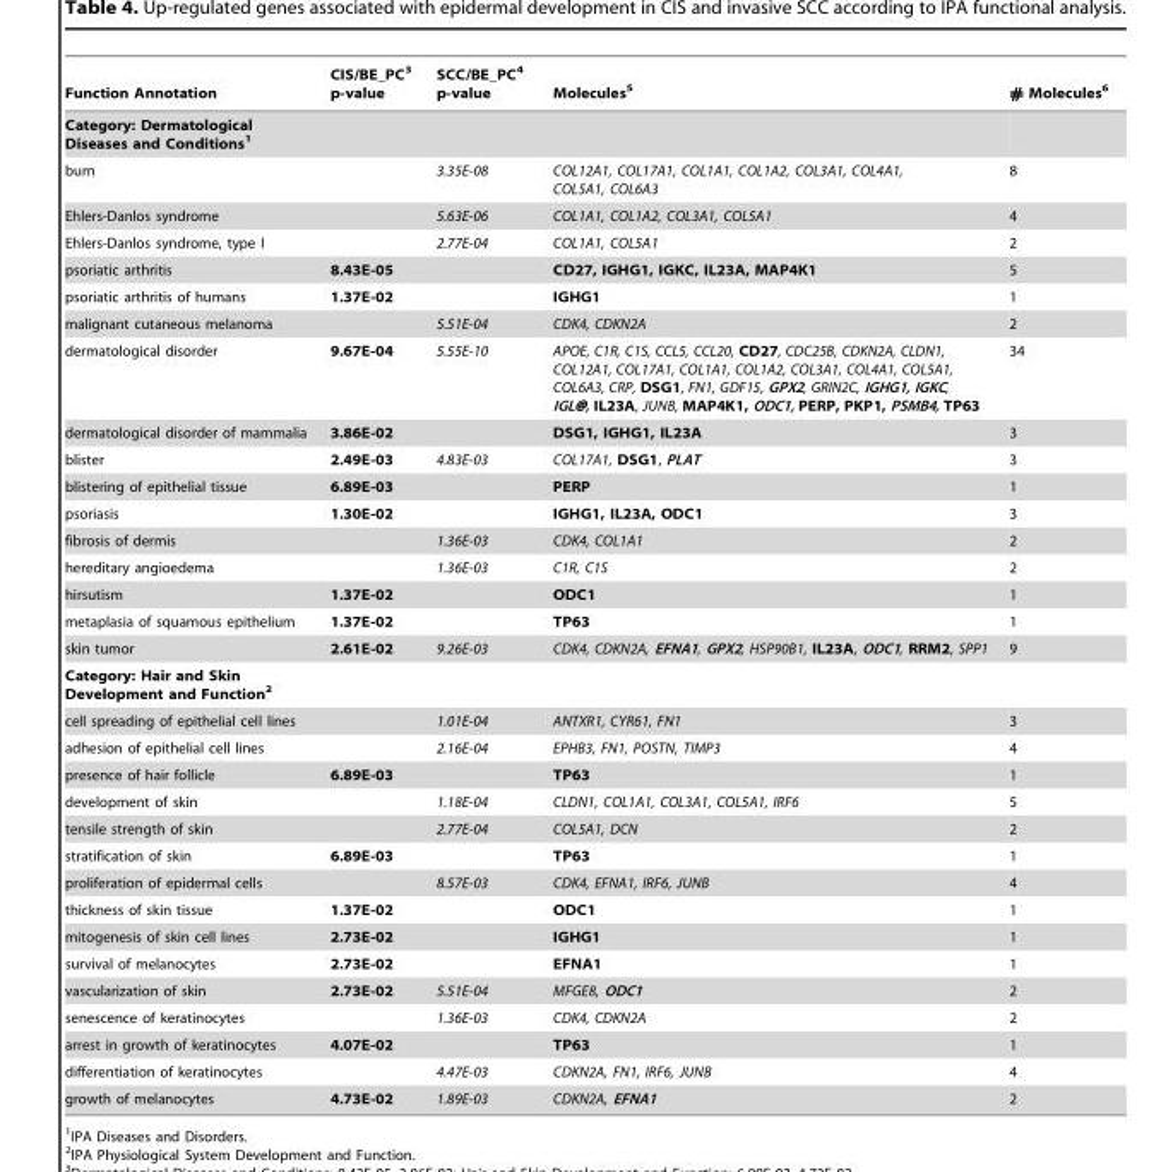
<table><thead><tr><td>Function Annotation</td><td>CIS/BE_PC<sup>3</sup> p-value</td><td>SCC/BE_PC<sup>4</sup> p-value</td><td>Molecules<sup>5</sup></td><td># Molecules<sup>6</sup></td></tr></thead><tbody><tr><td colspan="5">Category: Dermatological Diseases and Conditions1</td></tr><tr><td>burn</td><td></td><td>3.35E-08</td><td>COL12A1, COL17A1, COL1A1, COL1A2, COL3A1, COL4A1, COL5A1, COL6A3</td><td>8</td></tr><tr><td>Ehlers-Danlos syndrome</td><td></td><td>5.63E-06</td><td>COL1A1, COL1A2, COL3A1, COL5A1</td><td>4</td></tr><tr><td>Ehlers-Danlos syndrome, type I</td><td></td><td>2.77E-04</td><td>COL1A1, COL5A1</td><td>2</td></tr><tr><td>psoriatic arthritis</td><td>8.43E-05</td><td></td><td>CD27, IGHG1, IGKC, IL23A, MAP4K1</td><td>5</td></tr><tr><td>psoriatic arthritis of humans</td><td>1.37E-02</td><td></td><td>IGHG1</td><td>1</td></tr><tr><td>malignant cutaneous melanoma</td><td></td><td>5.51E-04</td><td>CDK4, CDKN2A</td><td>2</td></tr><tr><td>dermatological disorder</td><td>9.67E-04</td><td>5.55E-10</td><td>APOE, C1R, C1S, CCL5, CCL20, CD27, CDC25B, CDKN2A, CLDN1, COL12A1, COL17A1, COL1A1, COL1A2, COL3A1, COL4A1, COL5A1, COL6A3, CRP, DSG1, FN1, GDF15, GPX2, GRIN2C, IGHG1, IGKC, IGL@@, IL23A, JUNB, MAP4K1, ODC1, PERP, PKP1, PSMB4, TP63</td><td>34</td></tr><tr><td>dermatological disorder of mammalia</td><td>3.86E-02</td><td></td><td>DSG1, IGHG1, IL23A</td><td>3</td></tr><tr><td>blister</td><td>2.49E-03</td><td>4.83E-03</td><td>COL17A1, DSG1, PLAT</td><td>3</td></tr><tr><td>blistering of epithelial tissue</td><td>6.89E-03</td><td></td><td>PERP</td><td>1</td></tr><tr><td>psoriasis</td><td>1.30E-02</td><td></td><td>IGHG1, IL23A, ODC1</td><td>3</td></tr><tr><td>fibrosis of dermis</td><td></td><td>1.36E-03</td><td>CDK4, COL1A1</td><td>2</td></tr><tr><td>hereditary angioedema</td><td></td><td>1.36E-03</td><td>C1R, C1S</td><td>2</td></tr><tr><td>hirsutism</td><td>1.37E-02</td><td></td><td>ODC1</td><td>1</td></tr><tr><td>metaplasia of squamous epithelium</td><td>1.37E-02</td><td></td><td>TP63</td><td>1</td></tr><tr><td>skin tumor</td><td>2.61E-02</td><td>9.26E-03</td><td>CDK4, CDKN2A, EFNA1, GPX2, HSP90B1, IL23A, ODC1, RRM2, SPP1</td><td>9</td></tr><tr><td colspan="5">Category: Hair and Skin Development and Function<sup>2</sup></td></tr><tr><td>cell spreading of epithelial cell lines</td><td></td><td>1.01E-04</td><td>ANTXR1, CYR61, FN1</td><td>3</td></tr><tr><td>adhesion of epithelial cell lines</td><td></td><td>2.16E-04</td><td>EPHB3, FN1, POSTN, TIMP3</td><td>4</td></tr><tr><td>presence of hair follicle</td><td>6.89E-03</td><td></td><td>TP63</td><td>1</td></tr><tr><td>development of skin</td><td></td><td>1.18E-04</td><td>CLDN1, COL1A1, COL3A1, COL5A1, IRF6</td><td>5</td></tr><tr><td>tensile strength of skin</td><td></td><td>2.77E-04</td><td>COL5A1, DCN</td><td>2</td></tr><tr><td>stratification of skin</td><td>6.89E-03</td><td></td><td>TP63</td><td>1</td></tr><tr><td>proliferation of epidermal cells</td><td></td><td>8.57E-03</td><td>CDK4, EFNA1, IRF6, JUNB</td><td>4</td></tr><tr><td>thickness of skin tissue</td><td>1.37E-02</td><td></td><td>ODC1</td><td>1</td></tr><tr><td>mitogenesis of skin cell lines</td><td>2.73E-02</td><td></td><td>IGHG1</td><td>1</td></tr><tr><td>survival of melanocytes</td><td>2.73E-02</td><td></td><td>EFNA1</td><td>1</td></tr><tr><td>vascularization of skin</td><td>2.73E-02</td><td>5.51E-04</td><td>MFGE8, ODC1</td><td>2</td></tr><tr><td>senescence of keratinocytes</td><td></td><td>1.36E-03</td><td>CDK4, CDKN2A</td><td>2</td></tr><tr><td>arrest in growth of keratinocytes</td><td>4.07E-02</td><td></td><td>TP63</td><td>1</td></tr><tr><td>differentiation of keratinocytes</td><td></td><td>4.47E-03</td><td>CDKN2A, FN1, IRF6, JUNB</td><td>4</td></tr><tr><td>growth of melanocytes</td><td>4.73E-02</td><td>1.89E-03</td><td>CDKN2A, EFNA1</td><td>2</td></tr></tbody></table>